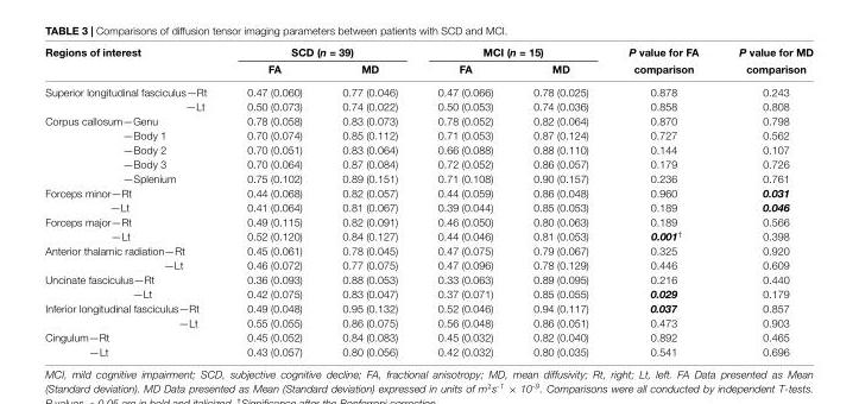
<table><thead><tr><td rowspan="2">Regions of interest</td><td colspan="2">SCD (n = 39)</td><td colspan="2">MCI (n = 15)</td><td rowspan="2">P value for FA comparison</td><td rowspan="2">P value for MD comparison</td></tr><tr><td>FA</td><td>MD</td><td>FA</td><td>MD</td></tr></thead><tbody><tr><td>Superior longitudinal fasciculus—Rt</td><td>0.47 (0.060)</td><td>0.77 (0.046)</td><td>0.47 (0.066)</td><td>0.78 (0.025)</td><td>0.878</td><td>0.243</td></tr><tr><td>—Lt</td><td>0.50 (0.073)</td><td>0.74 (0.022)</td><td>0.50 (0.053)</td><td>0.74 (0.036)</td><td>0.858</td><td>0.808</td></tr><tr><td>Corpus callosum—Genu</td><td>0.78 (0.058)</td><td>0.83 (0.073)</td><td>0.78 (0.052)</td><td>0.82 (0.064)</td><td>0.870</td><td>0.798</td></tr><tr><td>—Body 1</td><td>0.70 (0.074)</td><td>0.85 (0.112)</td><td>0.71 (0.053)</td><td>0.87 (0.124)</td><td>0.727</td><td>0.562</td></tr><tr><td>—Body 2</td><td>0.70 (0.051)</td><td>0.83 (0.064)</td><td>0.66 (0.088)</td><td>0.88 (0.110)</td><td>0.144</td><td>0.107</td></tr><tr><td>—Body 3</td><td>0.70 (0.064)</td><td>0.87 (0.084)</td><td>0.72 (0.052)</td><td>0.86 (0.057)</td><td>0.179</td><td>0.726</td></tr><tr><td>—Splenium</td><td>0.75 (0.102)</td><td>0.89 (0.151)</td><td>0.71 (0.108)</td><td>0.90 (0.157)</td><td>0.236</td><td>0.761</td></tr><tr><td>Forceps minor—Rt</td><td>0.44 (0.068)</td><td>0.82 (0.057)</td><td>0.44 (0.059)</td><td>0.86 (0.048)</td><td>0.960</td><td>0.031</td></tr><tr><td>—Lt</td><td>0.41 (0.064)</td><td>0.81 (0.067)</td><td>0.39 (0.044)</td><td>0.85 (0.053)</td><td>0.189</td><td>0.046</td></tr><tr><td>Forceps major—Rt</td><td>0.49 (0.115)</td><td>0.82 (0.091)</td><td>0.46 (0.050)</td><td>0.80 (0.063)</td><td>0.189</td><td>0.566</td></tr><tr><td>—Lt</td><td>0.52 (0.120)</td><td>0.84 (0.127)</td><td>0.44 (0.046)</td><td>0.81 (0.053)</td><td>0.001<sup>†</sup></td><td>0.398</td></tr><tr><td>Anterior thalamic radiation—Rt</td><td>0.45 (0.061)</td><td>0.78 (0.045)</td><td>0.47 (0.075)</td><td>0.79 (0.067)</td><td>0.325</td><td>0.920</td></tr><tr><td>—Lt</td><td>0.46 (0.072)</td><td>0.77 (0.075)</td><td>0.47 (0.096)</td><td>0.78 (0.129)</td><td>0.446</td><td>0.609</td></tr><tr><td>Uncinate fasciculus—Rt</td><td>0.36 (0.093)</td><td>0.88 (0.053)</td><td>0.33 (0.063)</td><td>0.89 (0.095)</td><td>0.216</td><td>0.440</td></tr><tr><td>—Lt</td><td>0.42 (0.075)</td><td>0.83 (0.047)</td><td>0.37 (0.071)</td><td>0.85 (0.055)</td><td>0.029</td><td>0.179</td></tr><tr><td>Inferior longitudinal fasciculus—Rt</td><td>0.49 (0.048)</td><td>0.95 (0.132)</td><td>0.52 (0.046)</td><td>0.94 (0.117)</td><td>0.037</td><td>0.857</td></tr><tr><td>—Lt</td><td>0.55 (0.055)</td><td>0.86 (0.075)</td><td>0.56 (0.048)</td><td>0.86 (0.051)</td><td>0.473</td><td>0.903</td></tr><tr><td>Cingulum—Rt</td><td>0.45 (0.052)</td><td>0.84 (0.083)</td><td>0.45 (0.032)</td><td>0.82 (0.040)</td><td>0.892</td><td>0.465</td></tr><tr><td>—Lt</td><td>0.43 (0.057)</td><td>0.80 (0.056)</td><td>0.42 (0.032)</td><td>0.80 (0.035)</td><td>0.541</td><td>0.696</td></tr></tbody></table>